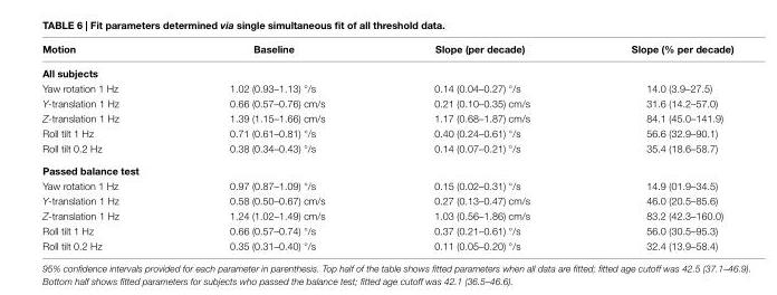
<table><thead><tr><td>Motion</td><td>Baseline</td><td>slope (per decade)</td><td>slope (% per decade)</td></tr></thead><tbody><tr><td colspan="4">all subjects</td></tr><tr><td>Yaw rotation 1 Hz</td><td>1.02 (0.93–1.13) °/s</td><td>0.14 (0.04–0.27) °/s</td><td>14.0 (3.9–27.5)</td></tr><tr><td>Y-translation 1 Hz</td><td>0.66 (0.57–0.76) cm/s</td><td>0.21 (0.10–0.35) cm/s</td><td>31.6 (14.2–57.0)</td></tr><tr><td>Z-translation 1 Hz</td><td>1.39 (1.15–1.66) cm/s</td><td>1.17 (0.68–1.87) cm/s</td><td>84.1 (45.0–141.9)</td></tr><tr><td>Roll tilt 1 Hz</td><td>0.71 (0.61–0.81) °/s</td><td>0.40 (0.24–0.61) °/s</td><td>56.6 (32.9–90.1)</td></tr><tr><td>Roll tilt 0.2 Hz</td><td>0.38 (0.34–0.43) °/s</td><td>0.14 (0.07–0.21) °/s</td><td>35.4 (18.6–58.7)</td></tr><tr><td colspan="4">Passed balance test</td></tr><tr><td>Yaw rotation 1 Hz</td><td>0.97 (0.87–1.09) °/s</td><td>0.15 (0.02–0.31) °/s</td><td>14.9 (01.9–34.5)</td></tr><tr><td>Y-translation 1 Hz</td><td>0.58 (0.50–0.67) cm/s</td><td>0.27 (0.13–0.47) cm/s</td><td>46.0 (20.5–85.6)</td></tr><tr><td>Z-translation 1 Hz</td><td>1.24 (1.02–1.49) cm/s</td><td>1.03 (0.56–1.86) cm/s</td><td>83.2 (42.3–160.0)</td></tr><tr><td>Roll tilt 1 Hz</td><td>0.66 (0.57–0.74) °/s</td><td>0.37 (0.21–0.61) °/s</td><td>56.0 (30.5–95.3)</td></tr><tr><td>Roll tilt 0.2 Hz</td><td>0.35 (0.31–0.40) °/s</td><td>0.11 (0.05–0.20) °/s</td><td>32.4 (13.9–58.4)</td></tr></tbody></table>